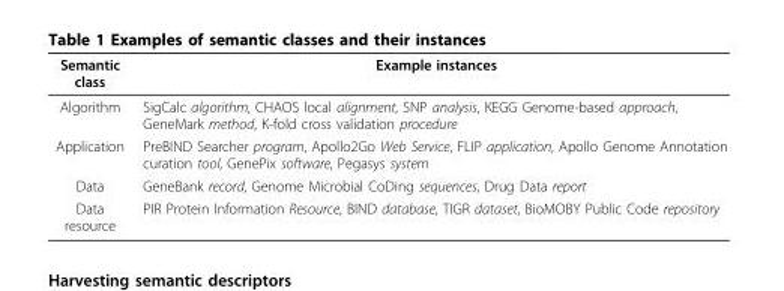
<table><thead><tr><td>Semantic class</td><td>Example instances</td></tr></thead><tbody><tr><td>Algorithm</td><td>SigCalc algorithm, CHAOS local alignment, SNP analysis, KEGG Genome-based approach, GeneMark method, K-fold cross validation procedure</td></tr><tr><td>Application</td><td>PreBIND Searcher program, Apollo2Go Web Service, FLIP application, Apollo Genome Annotation curation tool, GenePix software, Pegasys system</td></tr><tr><td>Data</td><td>GeneBank record, Genome Microbial CoDing sequences, Drug Data report</td></tr><tr><td>Data resource</td><td>PIR Protein Information Resource, BIND database, TIGR dataset, BioMOBY Public Code repository</td></tr></tbody></table>